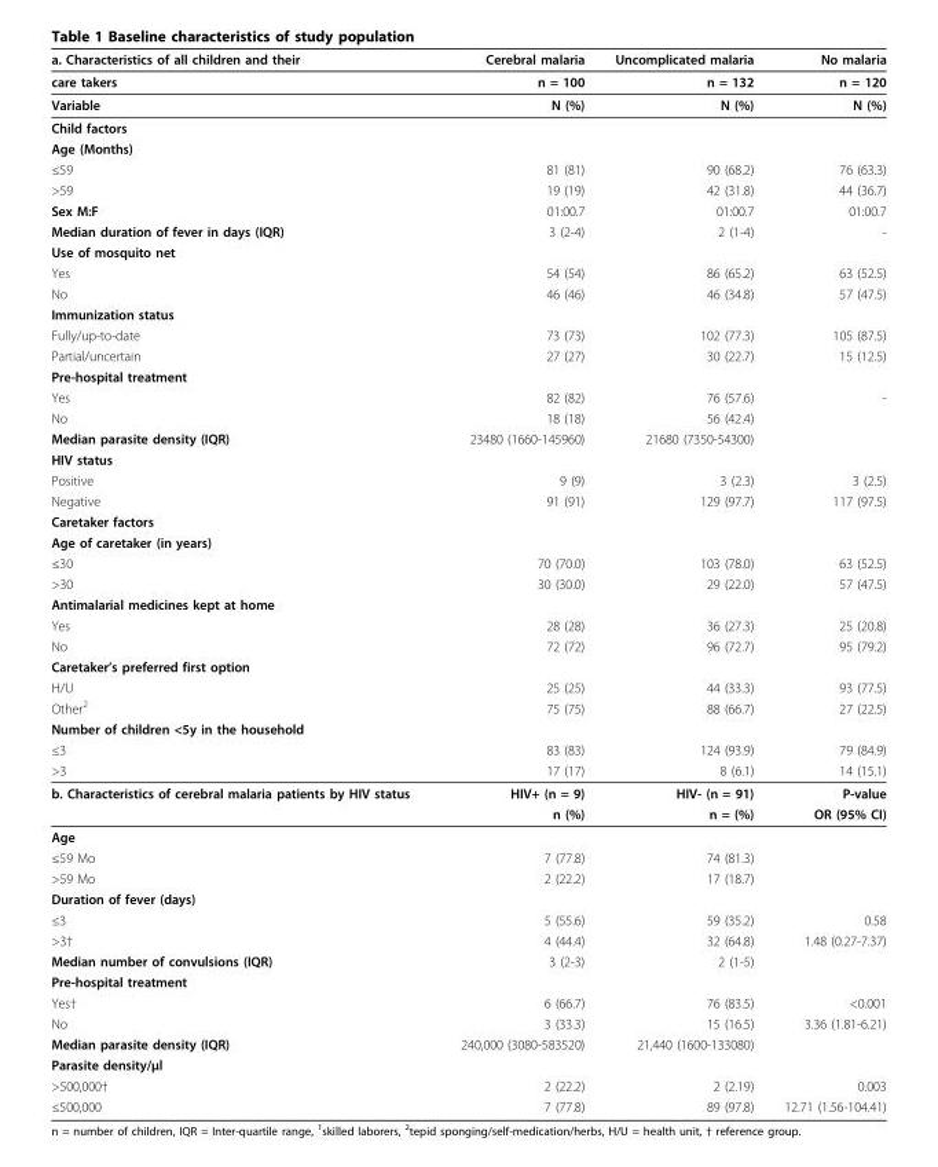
<table><thead><tr><td>a. Characteristics of all children and their</td><td>Cerebral malaria</td><td>Uncomplicated malaria</td><td>No malaria</td></tr></thead><tbody><tr><td>care takers</td><td>n = 100</td><td>n = 132</td><td>n = 120</td></tr><tr><td>Variable</td><td>N (%)</td><td>N (%)</td><td>N (%)</td></tr><tr><td colspan="4">Child factors</td></tr><tr><td colspan="4">Age (Months)</td></tr><tr><td>≤59</td><td>81 (81)</td><td>90 (68.2)</td><td>76 (63.3)</td></tr><tr><td>&gt;59</td><td>19 (19)</td><td>42 (31.8)</td><td>44 (36.7)</td></tr><tr><td>Sex M:F</td><td>01:00.7</td><td>01:00.7</td><td>01:00.7</td></tr><tr><td>Median duration of fever in days (IQR)</td><td>3 (2-4)</td><td>2 (1-4)</td><td>-</td></tr><tr><td colspan="4">Use of mosquito net</td></tr><tr><td>Yes</td><td>54 (54)</td><td>86 (65.2)</td><td>63 (52.5)</td></tr><tr><td>No</td><td>46 (46)</td><td>46 (34.8)</td><td>57 (47.5)</td></tr><tr><td colspan="4">Immunization status</td></tr><tr><td>Fully/up-to-date</td><td>73 (73)</td><td>102 (77.3)</td><td>105 (87.5)</td></tr><tr><td>Partial/uncertain</td><td>27 (27)</td><td>30 (22.7)</td><td>15 (12.5)</td></tr><tr><td colspan="4">Pre-hospital treatment</td></tr><tr><td>Yes</td><td>82 (82)</td><td>76 (57.6)</td><td>-</td></tr><tr><td>No</td><td>18 (18)</td><td>56 (42.4)</td><td></td></tr><tr><td>Median parasite density (IQR)</td><td>23480 (1660-145960)</td><td>21680 (7350-54300)</td><td></td></tr><tr><td colspan="4">HIV status</td></tr><tr><td>Positive</td><td>9 (9)</td><td>3 (2.3)</td><td>3 (2.5)</td></tr><tr><td>Negative</td><td>91 (91)</td><td>129 (97.7)</td><td>117 (97.5)</td></tr><tr><td colspan="4">Caretaker factors</td></tr><tr><td colspan="4">Age of caretaker (in years)</td></tr><tr><td>≤30</td><td>70 (70.0)</td><td>103 (78.0)</td><td>63 (52.5)</td></tr><tr><td>&gt;30</td><td>30 (30.0)</td><td>29 (22.0)</td><td>57 (47.5)</td></tr><tr><td colspan="4">Antimalarial medicines kept at home</td></tr><tr><td>Yes</td><td>28 (28)</td><td>36 (27.3)</td><td>25 (20.8)</td></tr><tr><td>No</td><td>72 (72)</td><td>96 (72.7)</td><td>95 (79.2)</td></tr><tr><td colspan="4">Caretaker’s preferred first option</td></tr><tr><td>H/U</td><td>25 (25)</td><td>44 (33.3)</td><td>93 (77.5)</td></tr><tr><td>Other<sup>2</sup></td><td>75 (75)</td><td>88 (66.7)</td><td>27 (22.5)</td></tr><tr><td colspan="4">Number of children &lt;5y in the household</td></tr><tr><td>≤3</td><td>83 (83)</td><td>124 (93.9)</td><td>79 (84.9)</td></tr><tr><td>&gt;3</td><td>17 (17)</td><td>8 (6.1)</td><td>14 (15.1)</td></tr><tr><td rowspan="2">b. Characteristics of cerebral malaria patients by HIV status</td><td>HIV+ (n = 9)</td><td>HIV- (n = 91)</td><td>P-value</td></tr><tr><td>n (%)</td><td>n = (%)</td><td>OR (95% CI)</td></tr><tr><td colspan="4">Age</td></tr><tr><td>≤59 Mo</td><td>7 (77.8)</td><td>74 (81.3)</td><td></td></tr><tr><td>&gt;59 Mo</td><td>2 (22.2)</td><td>17 (18.7)</td><td></td></tr><tr><td colspan="4">Duration of fever (days)</td></tr><tr><td>≤3</td><td>5 (55.6)</td><td>59 (35.2)</td><td>0.58</td></tr><tr><td>&gt;3†</td><td>4 (44.4)</td><td>32 (64.8)</td><td>1.48 (0.27-7.37)</td></tr><tr><td>Median number of convulsions (IQR)</td><td>3 (2-3)</td><td>2 (1-5)</td><td></td></tr><tr><td colspan="4">Pre-hospital treatment</td></tr><tr><td>Yes†</td><td>6 (66.7)</td><td>76 (83.5)</td><td>&lt;0.001</td></tr><tr><td>No</td><td>3 (33.3)</td><td>15 (16.5)</td><td>3.36 (1.81-6.21)</td></tr><tr><td>Median parasite density (IQR)</td><td>240,000 (3080-583520)</td><td>21,440 (1600-133080)</td><td></td></tr><tr><td colspan="4">Parasite density/μl</td></tr><tr><td>&gt;500,000†</td><td>2 (22.2)</td><td>2 (2.19)</td><td>0.003</td></tr><tr><td>≤500,000</td><td>7 (77.8)</td><td>89 (97.8)</td><td>12.71 (1.56-104.41)</td></tr></tbody></table>